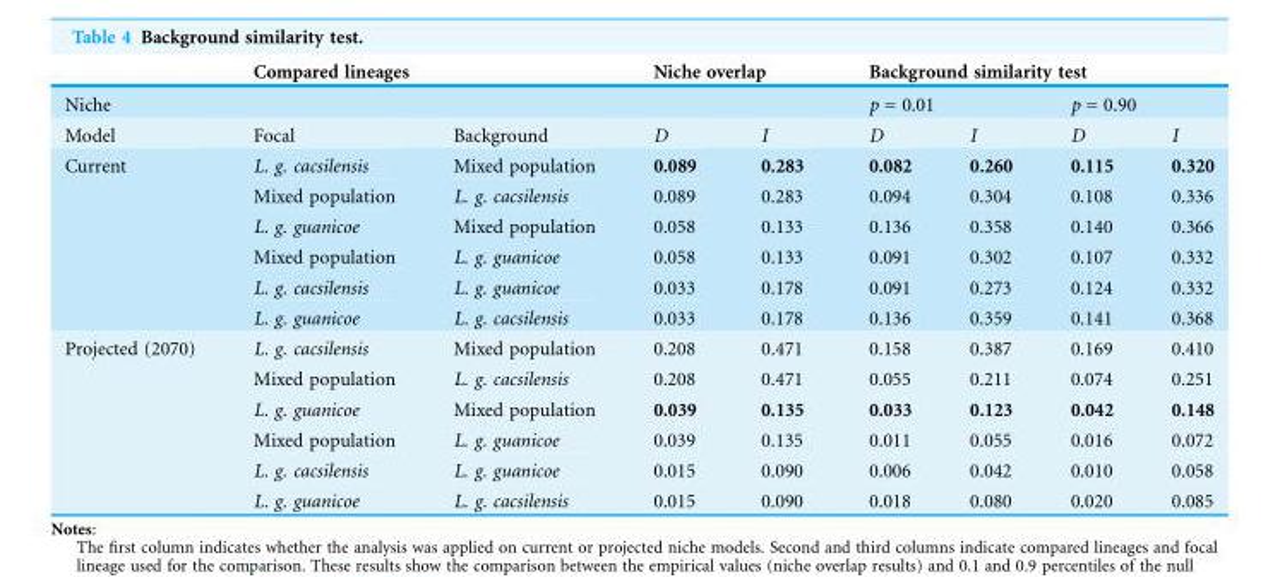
<table><thead><tr><td rowspan="3">Niche Model</td><td colspan="2">Compared lineages</td><td colspan="2">Niche overlap</td><td colspan="4">Background similarity test</td></tr><tr><td rowspan="2">Focal</td><td rowspan="2">Background</td><td rowspan="2">D</td><td rowspan="2">I</td><td colspan="2">p = 0.01</td><td colspan="2">p = 0.90</td></tr><tr><td>D</td><td>I</td><td>D</td><td>I</td></tr></thead><tbody><tr><td rowspan="6">Current</td><td>L. g. cacsilensis</td><td>Mixed population</td><td>0.089</td><td>0.283</td><td>0.082</td><td>0.260</td><td>0.115</td><td>0.320</td></tr><tr><td>Mixed population</td><td>L. g. cacsilensis</td><td>0.089</td><td>0.283</td><td>0.094</td><td>0.304</td><td>0.108</td><td>0.336</td></tr><tr><td>L. g. guanicoe</td><td>Mixed population</td><td>0.058</td><td>0.133</td><td>0.136</td><td>0.358</td><td>0.140</td><td>0.366</td></tr><tr><td>Mixed population</td><td>L. g. guanicoe</td><td>0.058</td><td>0.133</td><td>0.091</td><td>0.302</td><td>0.107</td><td>0.332</td></tr><tr><td>L. g. cacsilensis</td><td>L. g. guanicoe</td><td>0.033</td><td>0.178</td><td>0.091</td><td>0.273</td><td>0.124</td><td>0.332</td></tr><tr><td>L. g. guanicoe</td><td>L. g. cacsilensis</td><td>0.033</td><td>0.178</td><td>0.136</td><td>0.359</td><td>0.141</td><td>0.368</td></tr><tr><td rowspan="6">Projected (2070)</td><td>L. g. cacsilensis</td><td>Mixed population</td><td>0.208</td><td>0.471</td><td>0.158</td><td>0.387</td><td>0.169</td><td>0.410</td></tr><tr><td>Mixed population</td><td>L. g. cacsilensis</td><td>0.208</td><td>0.471</td><td>0.055</td><td>0.211</td><td>0.074</td><td>0.251</td></tr><tr><td>L. g. guanicoe</td><td>Mixed population</td><td>0.039</td><td>0.135</td><td>0.033</td><td>0.123</td><td>0.042</td><td>0.148</td></tr><tr><td>Mixed population</td><td>L. g. guanicoe</td><td>0.039</td><td>0.135</td><td>0.011</td><td>0.055</td><td>0.016</td><td>0.072</td></tr><tr><td>L. g. cacsilensis</td><td>L. g. guanicoe</td><td>0.015</td><td>0.090</td><td>0.006</td><td>0.042</td><td>0.010</td><td>0.058</td></tr><tr><td>L. g. guanicoe</td><td>L. g. cacsilensis</td><td>0.015</td><td>0.090</td><td>0.018</td><td>0.080</td><td>0.020</td><td>0.085</td></tr></tbody></table>